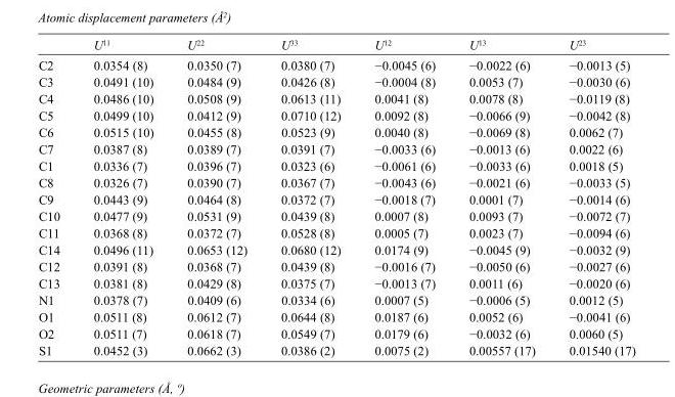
<table><thead><tr><td></td><td>U<sup>11</sup></td><td>U<sup>22</sup></td><td>U<sup>33</sup></td><td>U<sup>12</sup></td><td>U<sup>13</sup></td><td>U<sup>23</sup></td></tr></thead><tbody><tr><td>C2</td><td>0.0354 (8)</td><td>0.0350 (7)</td><td>0.0380 (7)</td><td>−0.0045 (6)</td><td>−0.0022 (6)</td><td>−0.0013 (5)</td></tr><tr><td>C3</td><td>0.0491 (10)</td><td>0.0484 (9)</td><td>0.0426 (8)</td><td>−0.0004 (8)</td><td>0.0053 (7)</td><td>−0.0030 (6)</td></tr><tr><td>C4</td><td>0.0486 (10)</td><td>0.0508 (9)</td><td>0.0613 (11)</td><td>0.0041 (8)</td><td>0.0078 (8)</td><td>−0.0119 (8)</td></tr><tr><td>C5</td><td>0.0499 (10)</td><td>0.0412 (9)</td><td>0.0710 (12)</td><td>0.0092 (8)</td><td>−0.0066 (9)</td><td>−0.0042 (8)</td></tr><tr><td>C6</td><td>0.0515 (10)</td><td>0.0455 (8)</td><td>0.0523 (9)</td><td>0.0040 (8)</td><td>−0.0069 (8)</td><td>0.0062 (7)</td></tr><tr><td>C7</td><td>0.0387 (8)</td><td>0.0389 (7)</td><td>0.0391 (7)</td><td>−0.0033 (6)</td><td>−0.0013 (6)</td><td>0.0022 (6)</td></tr><tr><td>C1</td><td>0.0336 (7)</td><td>0.0396 (7)</td><td>0.0323 (6)</td><td>−0.0061 (6)</td><td>−0.0033 (6)</td><td>0.0018 (5)</td></tr><tr><td>C8</td><td>0.0326 (7)</td><td>0.0390 (7)</td><td>0.0367 (7)</td><td>−0.0043 (6)</td><td>−0.0021 (6)</td><td>−0.0033 (5)</td></tr><tr><td>C9</td><td>0.0443 (9)</td><td>0.0464 (8)</td><td>0.0372 (7)</td><td>−0.0018 (7)</td><td>0.0001 (7)</td><td>−0.0014 (6)</td></tr><tr><td>C10</td><td>0.0477 (9)</td><td>0.0531 (9)</td><td>0.0439 (8)</td><td>0.0007 (8)</td><td>0.0093 (7)</td><td>−0.0072 (7)</td></tr><tr><td>C11</td><td>0.0368 (8)</td><td>0.0372 (7)</td><td>0.0528 (8)</td><td>0.0005 (7)</td><td>0.0023 (7)</td><td>−0.0094 (6)</td></tr><tr><td>C14</td><td>0.0496 (11)</td><td>0.0653 (12)</td><td>0.0680 (12)</td><td>0.0174 (9)</td><td>−0.0045 (9)</td><td>−0.0032 (9)</td></tr><tr><td>C12</td><td>0.0391 (8)</td><td>0.0368 (7)</td><td>0.0439 (8)</td><td>−0.0016 (7)</td><td>−0.0050 (6)</td><td>−0.0027 (6)</td></tr><tr><td>C13</td><td>0.0381 (8)</td><td>0.0429 (8)</td><td>0.0375 (7)</td><td>−0.0013 (7)</td><td>0.0011 (6)</td><td>−0.0020 (6)</td></tr><tr><td>N1</td><td>0.0378 (7)</td><td>0.0409 (6)</td><td>0.0334 (6)</td><td>0.0007 (5)</td><td>−0.0006 (5)</td><td>0.0012 (5)</td></tr><tr><td>O1</td><td>0.0511 (8)</td><td>0.0612 (7)</td><td>0.0644 (8)</td><td>0.0187 (6)</td><td>0.0052 (6)</td><td>−0.0041 (6)</td></tr><tr><td>O2</td><td>0.0511 (7)</td><td>0.0618 (7)</td><td>0.0549 (7)</td><td>0.0179 (6)</td><td>−0.0032 (6)</td><td>0.0060 (5)</td></tr><tr><td>S1</td><td>0.0452 (3)</td><td>0.0662 (3)</td><td>0.0386 (2)</td><td>0.0075 (2)</td><td>0.00557 (17)</td><td>0.01540 (17)</td></tr></tbody></table>